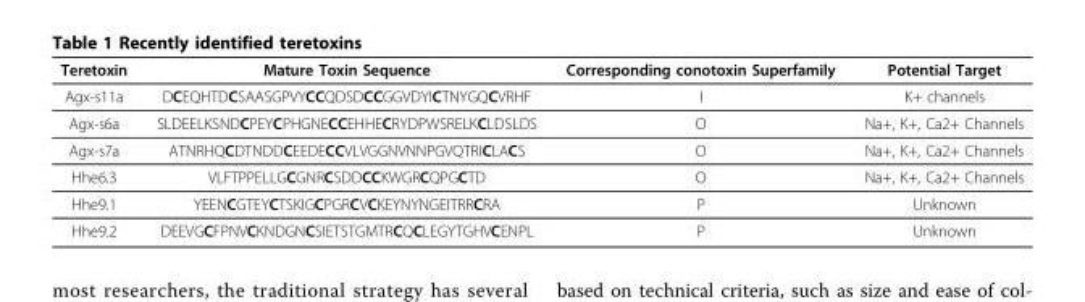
<table><thead><tr><td>Teretoxin</td><td>Mature Toxin Sequence</td><td>Corresponding conotoxin Superfamily</td><td>Potential Target</td></tr></thead><tbody><tr><td>Agx-s11a</td><td>DCEQHTDCSAASGPVYCCQDSDCCGGVDYICTNYGQCVRHF</td><td>I</td><td>K+ channels</td></tr><tr><td>Agx-s6a</td><td>SLDEELKSNDCPEYCPHGNECCEHHECRYDPWSRELKCLDSLDS</td><td>O</td><td>Na+, K+, Ca2+ Channels</td></tr><tr><td>Agx-s7a</td><td>ATNRHQCDTNDDCEEDECCVLVGGNVNNPGVQTRICLACS</td><td>O</td><td>Na+, K+, Ca2+ Channels</td></tr><tr><td>Hhe6.3</td><td>VLFTPPELLGCGNRCSDDCCKWGRCQPGCTD</td><td>O</td><td>Na+, K+, Ca2+ Channels</td></tr><tr><td>Hhe9.1</td><td>YEENCGTEYCTSKIGCPGRCVCKEYNYNGEITRRCRA</td><td>P</td><td>Unknown</td></tr><tr><td>Hhe9.2</td><td>DEEVGCFPNVCKNDGNCSIETSTGMTRCQCLEGYTGHVCENPL</td><td>P</td><td>Unknown</td></tr></tbody></table>